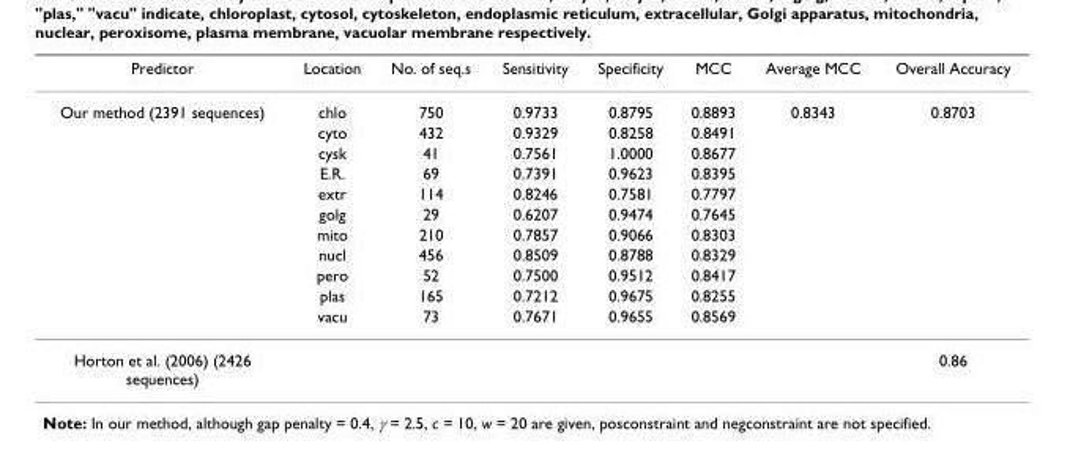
<table><thead><tr><td>Predictor</td><td>Location</td><td>No. of seq.s</td><td>Sensitivity</td><td>Specificity</td><td>MCC</td><td>Average MCC</td><td>Overall Accuracy</td></tr></thead><tbody><tr><td rowspan="11">Our method (2391 sequences)</td><td>chlo</td><td>750</td><td>0.9733</td><td>0.8795</td><td>0.8893</td><td>0.8343</td><td>0.8703</td></tr><tr><td>cyto</td><td>432</td><td>0.9329</td><td>0.8258</td><td>0.8491</td><td></td><td></td></tr><tr><td>cysk</td><td>41</td><td>0.7561</td><td>1.0000</td><td>0.8677</td><td></td><td></td></tr><tr><td>E.R.</td><td>69</td><td>0.7391</td><td>0.9623</td><td>0.8395</td><td></td><td></td></tr><tr><td>extr</td><td>114</td><td>0.8246</td><td>0.7581</td><td>0.7797</td><td></td><td></td></tr><tr><td>golg</td><td>29</td><td>0.6207</td><td>0.9474</td><td>0.7645</td><td></td><td></td></tr><tr><td>mito</td><td>210</td><td>0.7857</td><td>0.9066</td><td>0.8303</td><td></td><td></td></tr><tr><td>nucl</td><td>456</td><td>0.8509</td><td>0.8788</td><td>0.8329</td><td></td><td></td></tr><tr><td>pero</td><td>52</td><td>0.7500</td><td>0.9512</td><td>0.8417</td><td></td><td></td></tr><tr><td>plas</td><td>165</td><td>0.7212</td><td>0.9675</td><td>0.8255</td><td></td><td></td></tr><tr><td>vacu</td><td>73</td><td>0.7671</td><td>0.9655</td><td>0.8569</td><td></td><td></td></tr><tr><td>Horton et al. (2006) (2426 sequences)</td><td></td><td></td><td></td><td></td><td></td><td></td><td>0.86</td></tr></tbody></table>